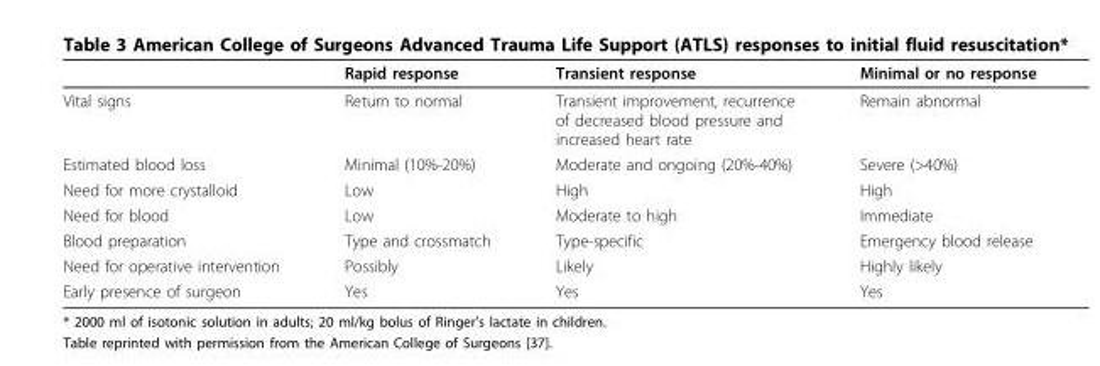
<table><thead><tr><td></td><td>Rapid response</td><td>Transient response</td><td>Minimal or no response</td></tr></thead><tbody><tr><td>Vital signs</td><td>Return to normal</td><td>Transient improvement, recurrence of decreased blood pressure and increased heart rate</td><td>Remain abnormal</td></tr><tr><td>Estimated blood loss</td><td>Minimal (10%-20%)</td><td>Moderate and ongoing (20%-40%)</td><td>Severe (&gt;40%)</td></tr><tr><td>Need for more crystalloid</td><td>Low</td><td>High</td><td>High</td></tr><tr><td>Need for blood</td><td>Low</td><td>Moderate to high</td><td>Immediate</td></tr><tr><td>Blood preparation</td><td>Type and crossmatch</td><td>Type-specific</td><td>Emergency blood release</td></tr><tr><td>Need for operative intervention</td><td>Possibly</td><td>Likely</td><td>Highly likely</td></tr><tr><td>Early presence of surgeon</td><td>Yes</td><td>Yes</td><td>Yes</td></tr></tbody></table>